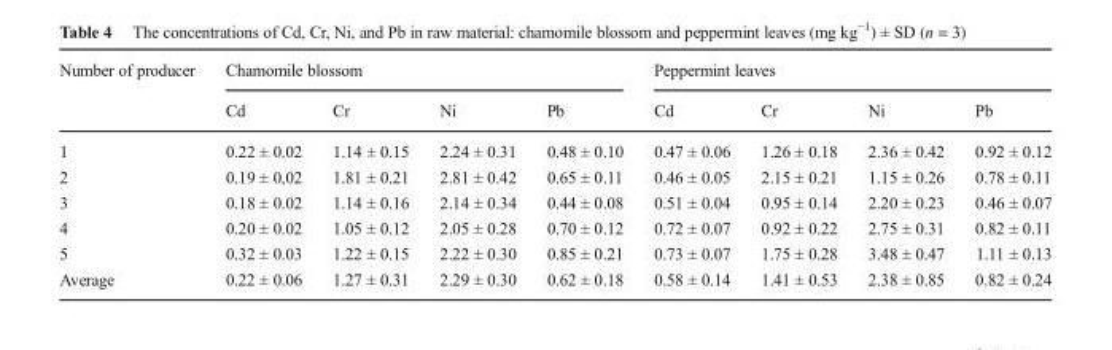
<table><thead><tr><td rowspan="2">Number of producer</td><td colspan="4">Chamomile blossom</td><td colspan="4">Peppermint leaves</td></tr><tr><td>Cd</td><td>Cr</td><td>Ni</td><td>Pb</td><td>Cd</td><td>Cr</td><td>Ni</td><td>Pb</td></tr></thead><tbody><tr><td>1</td><td>0.22 ± 0.02</td><td>1.14 ± 0.15</td><td>2.24 ± 0.31</td><td>0.48 ± 0.10</td><td>0.47 ± 0.06</td><td>1.26 ± 0.18</td><td>2.36 ± 0.42</td><td>0.92 ± 0.12</td></tr><tr><td>2</td><td>0.19 ± 0,02</td><td>1.81 ± 0.21</td><td>2.81 ± 0.42</td><td>0.65 ± 0.11</td><td>0.46 ± 0.05</td><td>2.15 ± 0.21</td><td>1.15 ± 0.26</td><td>0.78 ± 0.11</td></tr><tr><td>3</td><td>0.18 ± 0.02</td><td>1.14 ± 0.16</td><td>2.14 ± 0.34</td><td>0.44 ± 0.08</td><td>0.51 ± 0.04</td><td>0.95 ± 0.14</td><td>2.20 ± 0.23</td><td>0.46 ± 0.07</td></tr><tr><td>4</td><td>0.20 ± 0.02</td><td>1.05 ± 0.12</td><td>2.05 ± 0.28</td><td>0.70 ± 0.12</td><td>0.72 ± 0.07</td><td>0.92 ± 0.22</td><td>2.75 ± 0.31</td><td>0.82 ± 0.11</td></tr><tr><td>5</td><td>0.32 ± 0.03</td><td>1.22 ± 0.15</td><td>2.22 ± 0.30</td><td>0.85 ± 0.21</td><td>0.73 ± 0.07</td><td>1.75 ± 0.28</td><td>3.48 ± 0.47</td><td>1.11 ± 0.13</td></tr><tr><td>Average</td><td>0.22 ± 0.06</td><td>1.27 ± 0.31</td><td>2.29 ± 0.30</td><td>0.62 ± 0.18</td><td>0.58 ± 0.14</td><td>1.41 ± 0.53</td><td>2.38 ± 0.85</td><td>0.82 ± 0.24</td></tr></tbody></table>